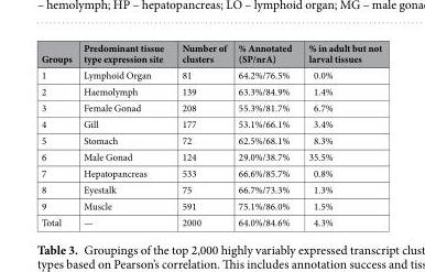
<table><thead><tr><td>Groups</td><td>Predominant tissue type expression site</td><td>Number of clusters</td><td>% Annotated (SP/nrA)</td><td>% in adult but not larval tissues</td></tr></thead><tbody><tr><td>1</td><td>Lymphoid Organ</td><td>81</td><td>64.2%/76.5%</td><td>0.0%</td></tr><tr><td>2</td><td>Haemolymph</td><td>139</td><td>63.3%/84.9%</td><td>1.4%</td></tr><tr><td>3</td><td>Female Gonad</td><td>208</td><td>55.3%/81.7%</td><td>6.7%</td></tr><tr><td>4</td><td>Gill</td><td>177</td><td>53.1%/66.1%</td><td>3.4%</td></tr><tr><td>5</td><td>Stomach</td><td>72</td><td>62.5%/68.1%</td><td>8.3%</td></tr><tr><td>6</td><td>Male Gonad</td><td>124</td><td>29.0%/38.7%</td><td>35.5%</td></tr><tr><td>7</td><td>Hepatopancreas</td><td>533</td><td>66.6%/85.7%</td><td>0.8%</td></tr><tr><td>8</td><td>Eyestalk</td><td>75</td><td>66.7%/73.3%</td><td>1.3%</td></tr><tr><td>9</td><td>Muscle</td><td>591</td><td>75.1%/86.0%</td><td>1.5%</td></tr><tr><td>Total</td><td>—</td><td>2000</td><td>64.0%/84.6%</td><td>4.3%</td></tr></tbody></table>